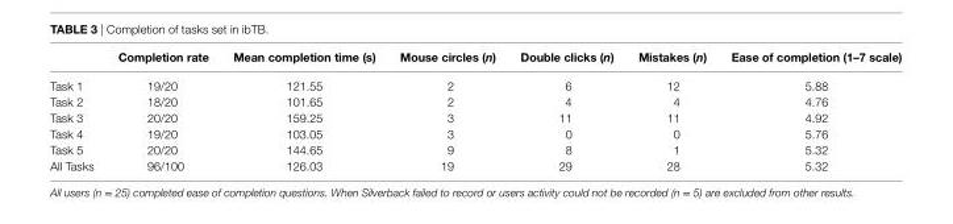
<table><thead><tr><td></td><td>completion rate</td><td>Mean completion time (s)</td><td>Mouse circles (n)</td><td>Double clicks (n)</td><td>Mistakes (n)</td><td>ease of completion (1–7 scale)</td></tr></thead><tbody><tr><td>Task 1</td><td>19/20</td><td>121.55</td><td>2</td><td>6</td><td>12</td><td>5.88</td></tr><tr><td>Task 2</td><td>18/20</td><td>101.65</td><td>2</td><td>4</td><td>4</td><td>4.76</td></tr><tr><td>Task 3</td><td>20/20</td><td>159.25</td><td>3</td><td>11</td><td>11</td><td>4.92</td></tr><tr><td>Task 4</td><td>19/20</td><td>103.05</td><td>3</td><td>0</td><td>0</td><td>5.76</td></tr><tr><td>Task 5</td><td>20/20</td><td>144.65</td><td>9</td><td>8</td><td>1</td><td>5.32</td></tr><tr><td>All Tasks</td><td>96/100</td><td>126.03</td><td>19</td><td>29</td><td>28</td><td>5.32</td></tr></tbody></table>